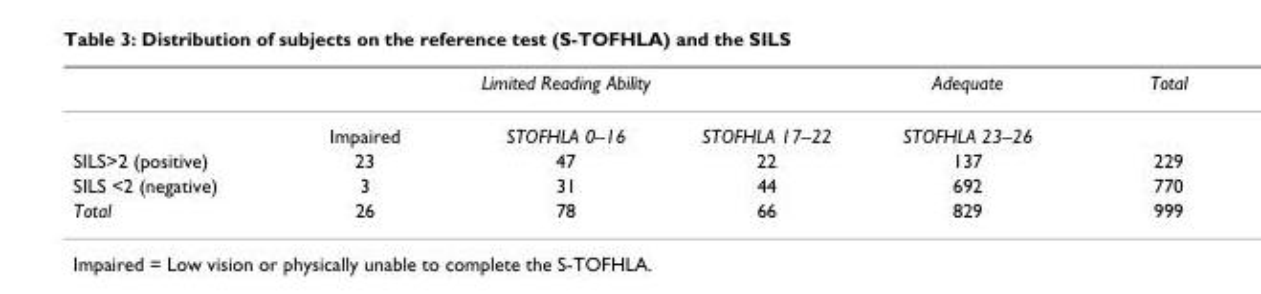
<table><thead><tr><td rowspan="2"></td><td colspan="3">Limited Reading Ability</td><td rowspan="2">Adequate STOFHLA 23–26</td><td rowspan="2">Total</td></tr><tr><td>Impaired</td><td>STOFHLA 0–16</td><td>STOFHLA 17–22</td></tr></thead><tbody><tr><td>SILS&gt;2 (positive)</td><td>23</td><td>47</td><td>22</td><td>137</td><td>229</td></tr><tr><td>SILS &lt;2 (negative)</td><td>3</td><td>31</td><td>44</td><td>692</td><td>770</td></tr><tr><td>Total</td><td>26</td><td>78</td><td>66</td><td>829</td><td>999</td></tr></tbody></table>